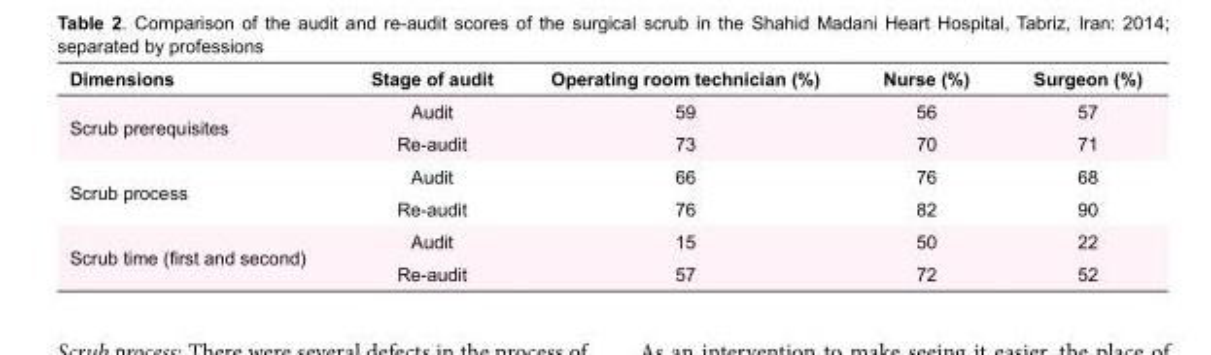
<table><tbody><tr><td>Dimensions</td><td>Stage of audit</td><td>Operating room technician (%)</td><td>Nurse (%)</td><td>Surgeon (%)</td></tr><tr><td rowspan="2">Scrub prerequisites</td><td>Audit</td><td>59</td><td>56</td><td>57</td></tr><tr><td>Re-audit</td><td>73</td><td>70</td><td>71</td></tr><tr><td rowspan="2">Scrub process</td><td>Audit</td><td>66</td><td>76</td><td>68</td></tr><tr><td>Re-audit</td><td>76</td><td>82</td><td>90</td></tr><tr><td rowspan="2">Scrub time (first and second)</td><td>Audit</td><td>15</td><td>50</td><td>22</td></tr><tr><td>Re-audit</td><td>57</td><td>72</td><td>52</td></tr></tbody></table>